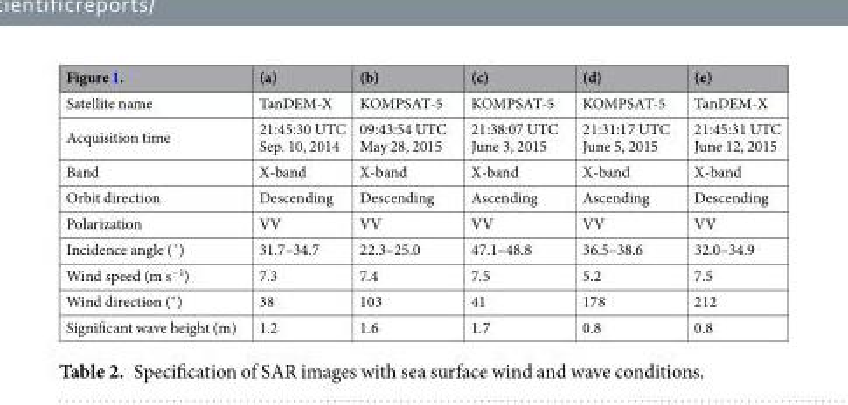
<table><thead><tr><td>Figure 1.</td><td>(a)</td><td>(b)</td><td>(c)</td><td>(d)</td><td>(e)</td></tr></thead><tbody><tr><td>Satellite name</td><td>TanDEM-X</td><td>KOMPSAT-5</td><td>KOMPSAT-5</td><td>KOMPSAT-5</td><td>TanDEM-X</td></tr><tr><td>Acquisition time</td><td>21:45:30 UTC Sep. 10, 2014</td><td>09:43:54 UTC May 28, 2015</td><td>21:38:07 UTC June 3, 2015</td><td>21:31:17 UTC June 5, 2015</td><td>21:45:31 UTC June 12, 2015</td></tr><tr><td>Band</td><td>X-band</td><td>X-band</td><td>X-band</td><td>X-band</td><td>X-band</td></tr><tr><td>Orbit direction</td><td>Descending</td><td>Descending</td><td>Ascending</td><td>Ascending</td><td>Descending</td></tr><tr><td>Polarization</td><td>VV</td><td>VV</td><td>VV</td><td>VV</td><td>VV</td></tr><tr><td>Incidence angle (˚)</td><td>31.7–34.7</td><td>22.3–25.0</td><td>47.1–48.8</td><td>36.5–38.6</td><td>32.0–34.9</td></tr><tr><td>Wind speed (m s<sup>−1</sup>)</td><td>7.3</td><td>7.4</td><td>7.5</td><td>5.2</td><td>7.5</td></tr><tr><td>Wind direction (˚)</td><td>38</td><td>103</td><td>41</td><td>178</td><td>212</td></tr><tr><td>Significant wave height (m)</td><td>1.2</td><td>1.6</td><td>1.7</td><td>0.8</td><td>0.8</td></tr></tbody></table>